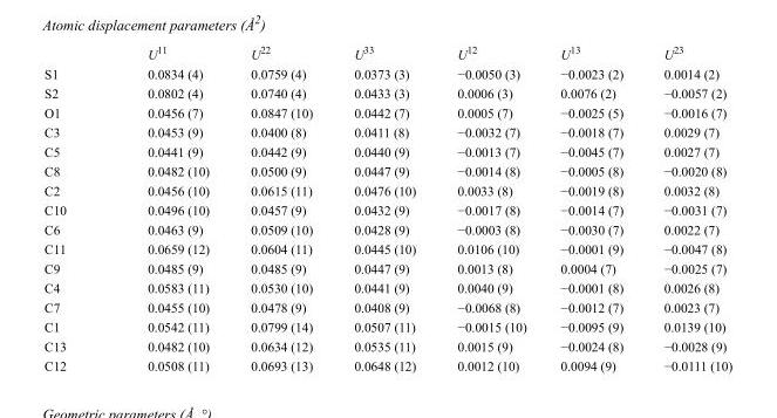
<table><thead><tr><td></td><td>U<sup>11</sup></td><td>U<sup>22</sup></td><td>U<sup>33</sup></td><td>U<sup>12</sup></td><td>U<sup>13</sup></td><td>U<sup>23</sup></td></tr></thead><tbody><tr><td>S1</td><td>0.0834 (4)</td><td>0.0759 (4)</td><td>0.0373 (3)</td><td>−0.0050 (3)</td><td>−0.0023 (2)</td><td>0.0014 (2)</td></tr><tr><td>S2</td><td>0.0802 (4)</td><td>0.0740 (4)</td><td>0.0433 (3)</td><td>0.0006 (3)</td><td>0.0076 (2)</td><td>−0.0057 (2)</td></tr><tr><td>O1</td><td>0.0456 (7)</td><td>0.0847 (10)</td><td>0.0442 (7)</td><td>0.0005 (7)</td><td>−0.0025 (5)</td><td>−0.0016 (7)</td></tr><tr><td>C3</td><td>0.0453 (9)</td><td>0.0400 (8)</td><td>0.0411 (8)</td><td>−0.0032 (7)</td><td>−0.0018 (7)</td><td>0.0029 (7)</td></tr><tr><td>C5</td><td>0.0441 (9)</td><td>0.0442 (9)</td><td>0.0440 (9)</td><td>−0.0013 (7)</td><td>−0.0045 (7)</td><td>0.0027 (7)</td></tr><tr><td>C8</td><td>0.0482 (10)</td><td>0.0500 (9)</td><td>0.0447 (9)</td><td>−0.0014 (8)</td><td>−0.0005 (8)</td><td>−0.0020 (8)</td></tr><tr><td>C2</td><td>0.0456 (10)</td><td>0.0615 (11)</td><td>0.0476 (10)</td><td>0.0033 (8)</td><td>−0.0019 (8)</td><td>0.0032 (8)</td></tr><tr><td>C10</td><td>0.0496 (10)</td><td>0.0457 (9)</td><td>0.0432 (9)</td><td>−0.0017 (8)</td><td>−0.0014 (7)</td><td>−0.0031 (7)</td></tr><tr><td>C6</td><td>0.0463 (9)</td><td>0.0509 (10)</td><td>0.0428 (9)</td><td>−0.0003 (8)</td><td>−0.0030 (7)</td><td>0.0022 (7)</td></tr><tr><td>C11</td><td>0.0659 (12)</td><td>0.0604 (11)</td><td>0.0445 (10)</td><td>0.0106 (10)</td><td>−0.0001 (9)</td><td>−0.0047 (8)</td></tr><tr><td>C9</td><td>0.0485 (9)</td><td>0.0485 (9)</td><td>0.0447 (9)</td><td>0.0013 (8)</td><td>0.0004 (7)</td><td>−0.0025 (7)</td></tr><tr><td>C4</td><td>0.0583 (11)</td><td>0.0530 (10)</td><td>0.0441 (9)</td><td>0.0040 (9)</td><td>−0.0001 (8)</td><td>0.0026 (8)</td></tr><tr><td>C7</td><td>0.0455 (10)</td><td>0.0478 (9)</td><td>0.0408 (9)</td><td>−0.0068 (8)</td><td>−0.0012 (7)</td><td>0.0023 (7)</td></tr><tr><td>C1</td><td>0.0542 (11)</td><td>0.0799 (14)</td><td>0.0507 (11)</td><td>−0.0015 (10)</td><td>−0.0095 (9)</td><td>0.0139 (10)</td></tr><tr><td>C13</td><td>0.0482 (10)</td><td>0.0634 (12)</td><td>0.0535 (11)</td><td>0.0015 (9)</td><td>−0.0024 (8)</td><td>−0.0028 (9)</td></tr><tr><td>C12</td><td>0.0508 (11)</td><td>0.0693 (13)</td><td>0.0648 (12)</td><td>0.0012 (10)</td><td>0.0094 (9)</td><td>−0.0111 (10)</td></tr></tbody></table>